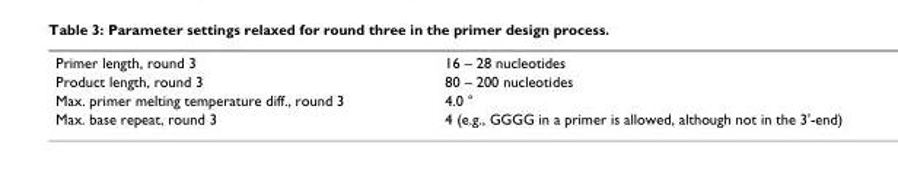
<table><tbody><tr><td>Primer length, round 3</td><td>16 – 28 nucleotides</td></tr><tr><td>Product length, round 3</td><td>80 – 200 nucleotides</td></tr><tr><td>Max. primer melting temperature diff., round 3</td><td>4.0 °</td></tr><tr><td>Max. base repeat, round 3</td><td>4 (e.g., GGGG in a primer is allowed, although not in the 3&#x27;-end)</td></tr></tbody></table>